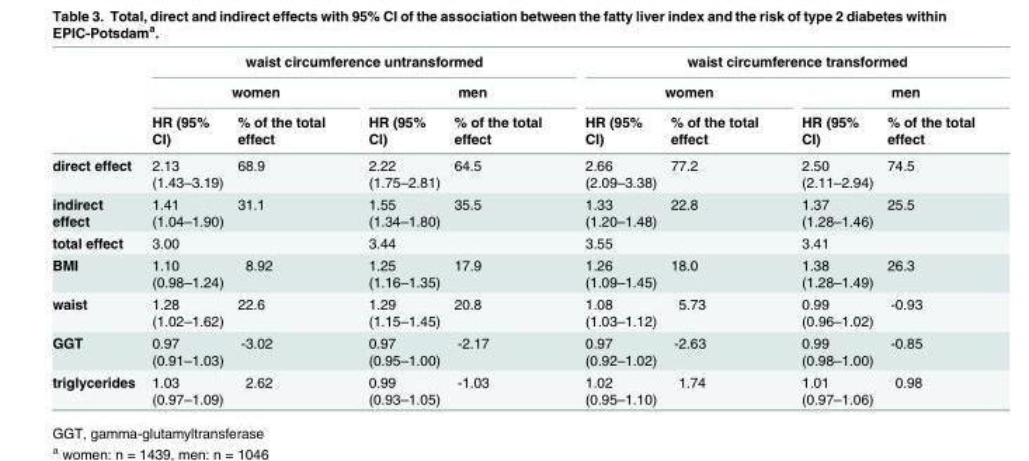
<table><thead><tr><td rowspan="3"></td><td colspan="4">waist circumference untransformed</td><td colspan="4">waist circumference transformed</td></tr><tr><td colspan="2">women</td><td colspan="2">men</td><td colspan="2">women</td><td colspan="2">men</td></tr><tr><td>HR (95% CI)</td><td>% of the total effect</td><td>HR (95% CI)</td><td>% of the total effect</td><td>HR (95% CI)</td><td>% of the total effect</td><td>HR (95% CI)</td><td>% of the total effect</td></tr></thead><tbody><tr><td>direct effect</td><td>2.13 (1.43–3.19)</td><td>68.9</td><td>2.22 (1.75–2.81)</td><td>64.5</td><td>2.66 (2.09–3.38)</td><td>77.2</td><td>2.50 (2.11–2.94)</td><td>74.5</td></tr><tr><td>indirect effect</td><td>1.41 (1.04–1.90)</td><td>31.1</td><td>1.55 (1.34–1.80)</td><td>35.5</td><td>1.33 (1.20–1.48)</td><td>22.8</td><td>1.37 (1.28–1.46)</td><td>25.5</td></tr><tr><td>total effect</td><td>3.00</td><td></td><td>3.44</td><td></td><td>3.55</td><td></td><td>3.41</td><td></td></tr><tr><td>BMI</td><td>1.10 (0.98–1.24)</td><td>8.92</td><td>1.25 (1.16–1.35)</td><td>17.9</td><td>1.26 (1.09–1.45)</td><td>18.0</td><td>1.38 (1.28–1.49)</td><td>26.3</td></tr><tr><td>waist</td><td>1.28 (1.02–1.62)</td><td>22.6</td><td>1.29 (1.15–1.45)</td><td>20.8</td><td>1.08 (1.03–1.12)</td><td>5.73</td><td>0.99 (0.96–1.02)</td><td>-0.93</td></tr><tr><td>GGT</td><td>0.97 (0.91–1.03)</td><td>-3.02</td><td>0.97 (0.95–1.00)</td><td>-2.17</td><td>0.97 (0.92–1.02)</td><td>-2.63</td><td>0.99 (0.98–1.00)</td><td>-0.85</td></tr><tr><td>triglycerides</td><td>1.03 (0.97–1.09)</td><td>2.62</td><td>0.99 (0.93–1.05)</td><td>-1.03</td><td>1.02 (0.95–1.10)</td><td>1.74</td><td>1.01 (0.97–1.06)</td><td>0.98</td></tr></tbody></table>